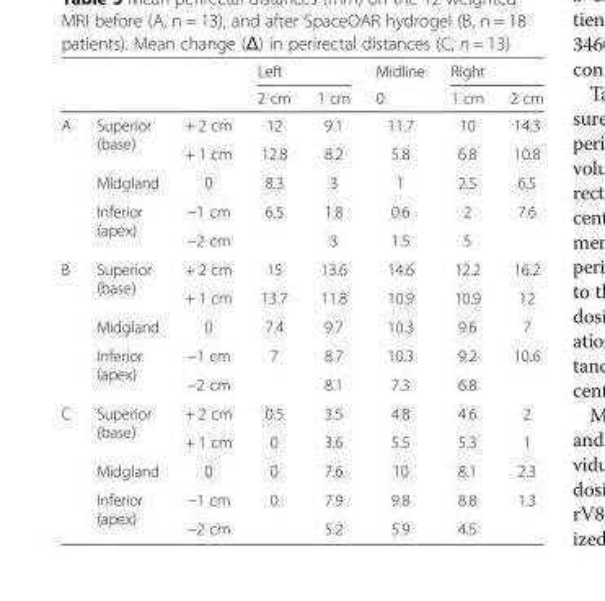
<table><thead><tr><td rowspan="2"></td><td rowspan="2"></td><td rowspan="2"></td><td colspan="2">Left</td><td rowspan="2">Midline 0</td><td colspan="2">Right</td></tr><tr><td>2 cm</td><td>1 cm</td><td>1 cm</td><td>2 cm</td></tr></thead><tbody><tr><td rowspan="5">A</td><td rowspan="2">Superior (base)</td><td>+ 2 cm</td><td>12</td><td>9.1</td><td>11.7</td><td>10</td><td>14.3</td></tr><tr><td>+ 1 cm</td><td>12.8</td><td>8.2</td><td>5.8</td><td>6.8</td><td>10.8</td></tr><tr><td>Midgland</td><td>0</td><td>8.3</td><td>3</td><td>1</td><td>2.5</td><td>6.5</td></tr><tr><td rowspan="2">Inferior (apex)</td><td>−1 cm</td><td>6.5</td><td>1.8</td><td>0.6</td><td>2</td><td>7.6</td></tr><tr><td>−2 cm</td><td></td><td>3</td><td>1.5</td><td>5</td><td></td></tr><tr><td rowspan="5">B</td><td rowspan="2">Superior (base)</td><td>+ 2 cm</td><td>15</td><td>13.6</td><td>14.6</td><td>12.2</td><td>16.2</td></tr><tr><td>+ 1 cm</td><td>13.7</td><td>11.8</td><td>10.9</td><td>10.9</td><td>12</td></tr><tr><td>Midgland</td><td>0</td><td>7.4</td><td>9.7</td><td>10.3</td><td>9.6</td><td>7</td></tr><tr><td rowspan="2">Inferior (apex)</td><td>−1 cm</td><td>7</td><td>8.7</td><td>10.3</td><td>9.2</td><td>10.6</td></tr><tr><td>−2 cm</td><td></td><td>8.1</td><td>7.3</td><td>6.8</td><td></td></tr><tr><td rowspan="5">C</td><td rowspan="2">Superior (base)</td><td>+ 2 cm</td><td>0.5</td><td>3.5</td><td>4.8</td><td>4.6</td><td>2</td></tr><tr><td>+ 1 cm</td><td>0</td><td>3.6</td><td>5.5</td><td>5.3</td><td>1</td></tr><tr><td>Midgland</td><td>0</td><td>0</td><td>7.6</td><td>10</td><td>8.1</td><td>2.3</td></tr><tr><td rowspan="2">Inferior (apex)</td><td>−1 cm</td><td>0</td><td>7.9</td><td>9.8</td><td>8.8</td><td>1.3</td></tr><tr><td>−2 cm</td><td></td><td>5.2</td><td>5.9</td><td>4.5</td><td></td></tr></tbody></table>